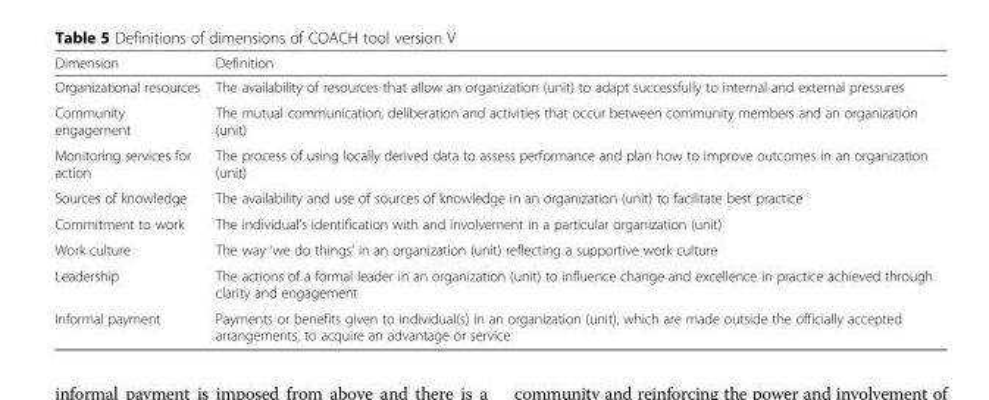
<table><thead><tr><td>Dimension</td><td>Definition</td></tr></thead><tbody><tr><td>Organizational resources</td><td>The availability of resources that allow an organization (unit) to adapt successfully to internal and external pressures</td></tr><tr><td>Community engagement</td><td>The mutual communication, deliberation and activities that occur between community members and an organization (unit)</td></tr><tr><td>Monitoring services for action</td><td>The process of using locally derived data to assess performance and plan how to improve outcomes in an organization (unit)</td></tr><tr><td>Sources of knowledge</td><td>The availability and use of sources of knowledge in an organization (unit) to facilitate best practice</td></tr><tr><td>Commitment to work</td><td>The individual’s identification with and involvement in a particular organization (unit)</td></tr><tr><td>Work culture</td><td>The way ‘we do things’ in an organization (unit) reflecting a supportive work culture</td></tr><tr><td>Leadership</td><td>The actions of a formal leader in an organization (unit) to influence change and excellence in practice achieved through clarity and engagement</td></tr><tr><td>Informal payment</td><td>Payments or benefits given to individual(s) in an organization (unit), which are made outside the officially accepted arrangements, to acquire an advantage or service</td></tr></tbody></table>